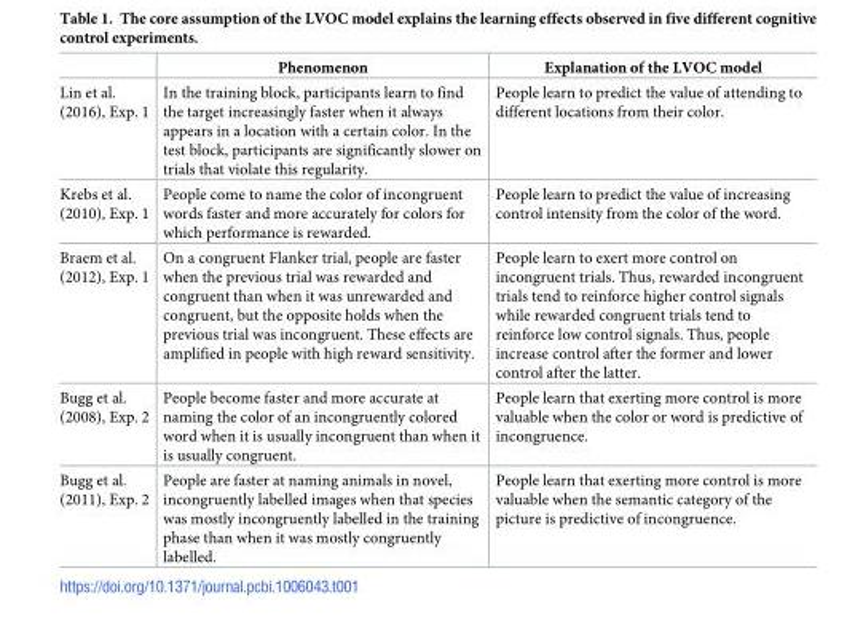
<table><thead><tr><td></td><td>Phenomenon</td><td>Explanation of the LVOC model</td></tr></thead><tbody><tr><td>Lin et al. (2016), Exp. 1</td><td>In the training block, participants learn to find the target increasingly faster when it always appears in a location with a certain color. In the test block, participants are significantly slower on trials that violate this regularity.</td><td>People learn to predict the value of attending to different locations from their color.</td></tr><tr><td>Krebs et al. (2010), Exp. 1</td><td>People come to name the color of incongruent words faster and more accurately for colors for which performance is rewarded.</td><td>People learn to predict the value of increasing control intensity from the color of the word.</td></tr><tr><td>Braem et al. (2012), Exp. 1</td><td>On a congruent Flanker trial, people are faster when the previous trial was rewarded and congruent than when it was unrewarded and congruent, but the opposite holds when the previous trial was incongruent. These effects are amplified in people with high reward sensitivity.</td><td>People learn to exert more control on incongruent trials. Thus, rewarded incongruent trials tend to reinforce higher control signals while rewarded congruent trials tend to reinforce low control signals. Thus, people increase control after the former and lower control after the latter.</td></tr><tr><td>Bugg et al. (2008), Exp. 2</td><td>People become faster and more accurate at naming the color of an incongruently colored word when it is usually incongruent than when it is usually congruent.</td><td>People learn that exerting more control is more valuable when the color or word is predictive of incongruence.</td></tr><tr><td>Bugg et al. (2011), Exp. 2</td><td>People are faster at naming animals in novel, incongruently labelled images when that species was mostly incongruently labelled in the training phase than when it was mostly congruently labelled.</td><td>People learn that exerting more control is more valuable when the semantic category of the picture is predictive of incongruence.</td></tr></tbody></table>